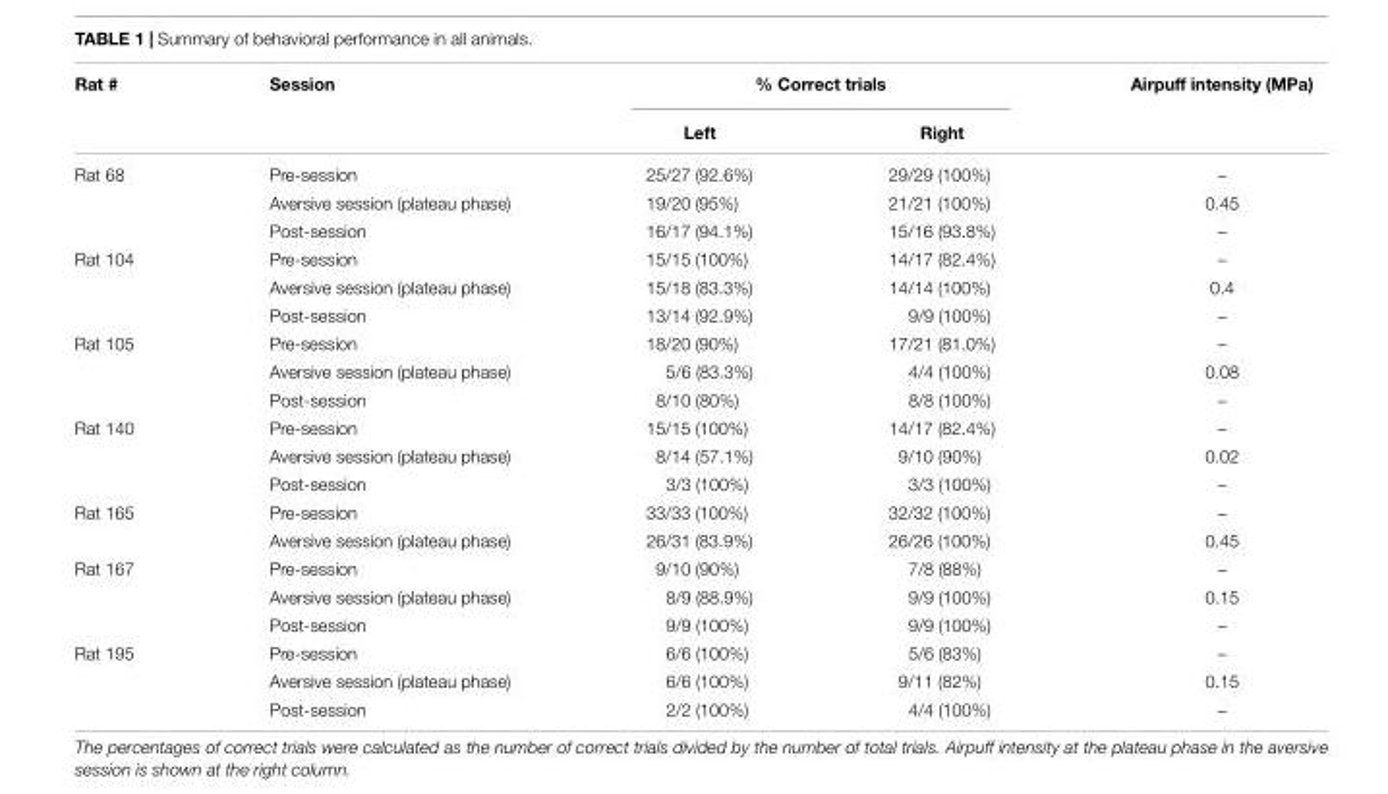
<table><thead><tr><td rowspan="2">Rat #</td><td rowspan="2">Session</td><td colspan="2">% Correct trials</td><td rowspan="2">Airpuff intensity (MPa)</td></tr><tr><td>Left</td><td>Right</td></tr></thead><tbody><tr><td rowspan="3">Rat 68</td><td>Pre-session</td><td>25/27 (92.6%)</td><td>29/29 (100%)</td><td>–</td></tr><tr><td>Aversive session (plateau phase)</td><td>19/20 (95%)</td><td>21/21 (100%)</td><td>0.45</td></tr><tr><td>Post-session</td><td>16/17 (94.1%)</td><td>15/16 (93.8%)</td><td>–</td></tr><tr><td rowspan="3">Rat 104</td><td>Pre-session</td><td>15/15 (100%)</td><td>14/17 (82.4%)</td><td>–</td></tr><tr><td>Aversive session (plateau phase)</td><td>15/18 (83.3%)</td><td>14/14 (100%)</td><td>0.4</td></tr><tr><td>Post-session</td><td>13/14 (92.9%)</td><td>9/9 (100%)</td><td>–</td></tr><tr><td rowspan="3">Rat 105</td><td>Pre-session</td><td>18/20 (90%)</td><td>17/21 (81.0%)</td><td>–</td></tr><tr><td>Aversive session (plateau phase)</td><td>5/6 (83.3%)</td><td>4/4 (100%)</td><td>0.08</td></tr><tr><td>Post-session</td><td>8/10 (80%)</td><td>8/8 (100%)</td><td>–</td></tr><tr><td rowspan="3">Rat 140</td><td>Pre-session</td><td>15/15 (100%)</td><td>14/17 (82.4%)</td><td>–</td></tr><tr><td>Aversive session (plateau phase)</td><td>8/14 (57.1%)</td><td>9/10 (90%)</td><td>0.02</td></tr><tr><td>Post-session</td><td>3/3 (100%)</td><td>3/3 (100%)</td><td>–</td></tr><tr><td rowspan="2">Rat 165</td><td>Pre-session</td><td>33/33 (100%)</td><td>32/32 (100%)</td><td>–</td></tr><tr><td>Aversive session (plateau phase)</td><td>26/31 (83.9%)</td><td>26/26 (100%)</td><td>0.45</td></tr><tr><td rowspan="3">Rat 167</td><td>Pre-session</td><td>9/10 (90%)</td><td>7/8 (88%)</td><td>–</td></tr><tr><td>Aversive session (plateau phase)</td><td>8/9 (88.9%)</td><td>9/9 (100%)</td><td>0.15</td></tr><tr><td>Post-session</td><td>9/9 (100%)</td><td>9/9 (100%)</td><td>–</td></tr><tr><td rowspan="3">Rat 195</td><td>Pre-session</td><td>6/6 (100%)</td><td>5/6 (83%)</td><td>–</td></tr><tr><td>Aversive session (plateau phase)</td><td>6/6 (100%)</td><td>9/11 (82%)</td><td>0.15</td></tr><tr><td>Post-session</td><td>2/2 (100%)</td><td>4/4 (100%)</td><td>–</td></tr></tbody></table>